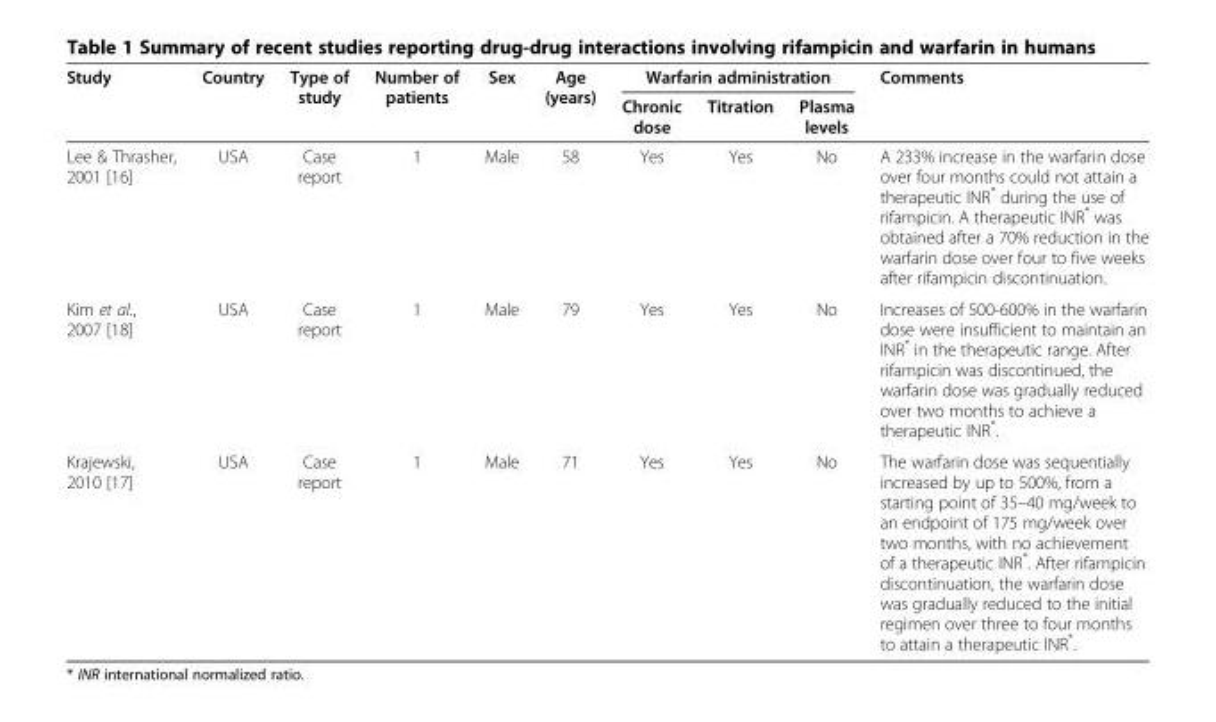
<table><thead><tr><td rowspan="2">Study</td><td rowspan="2">Country</td><td rowspan="2">Type of study</td><td rowspan="2">Number of patients</td><td rowspan="2">Sex</td><td rowspan="2">Age (years)</td><td colspan="3">Warfarin administration</td><td rowspan="2">Comments</td></tr><tr><td>Chronic dose</td><td>Titration</td><td>Plasma levels</td></tr></thead><tbody><tr><td>Lee &amp; Thrasher, 2001 [16]</td><td>USA</td><td>Case report</td><td>1</td><td>Male</td><td>58</td><td>Yes</td><td>Yes</td><td>No</td><td>A 233% increase in the warfarin dose over four months could not attain a therapeutic INR* during the use of rifampicin. A therapeutic INR* was obtained after a 70% reduction in the warfarin dose over four to five weeks after rifampicin discontinuation.</td></tr><tr><td>Kim et al., 2007 [18]</td><td>USA</td><td>Case report</td><td>1</td><td>Male</td><td>79</td><td>Yes</td><td>Yes</td><td>No</td><td>Increases of 500-600% in the warfarin dose were insufficient to maintain an INR* in the therapeutic range. After rifampicin was discontinued, the warfarin dose was gradually reduced over two months to achieve a therapeutic INR*.</td></tr><tr><td>Krajewski, 2010 [17]</td><td>USA</td><td>Case report</td><td>1</td><td>Male</td><td>71</td><td>Yes</td><td>Yes</td><td>No</td><td>The warfarin dose was sequentially increased by up to 500%, from a starting point of 35–40 mg/week to an endpoint of 175 mg/week over two months, with no achievement of a therapeutic INR*. After rifampicin discontinuation, the warfarin dose was gradually reduced to the initial regimen over three to four months to attain a therapeutic INR*.</td></tr></tbody></table>